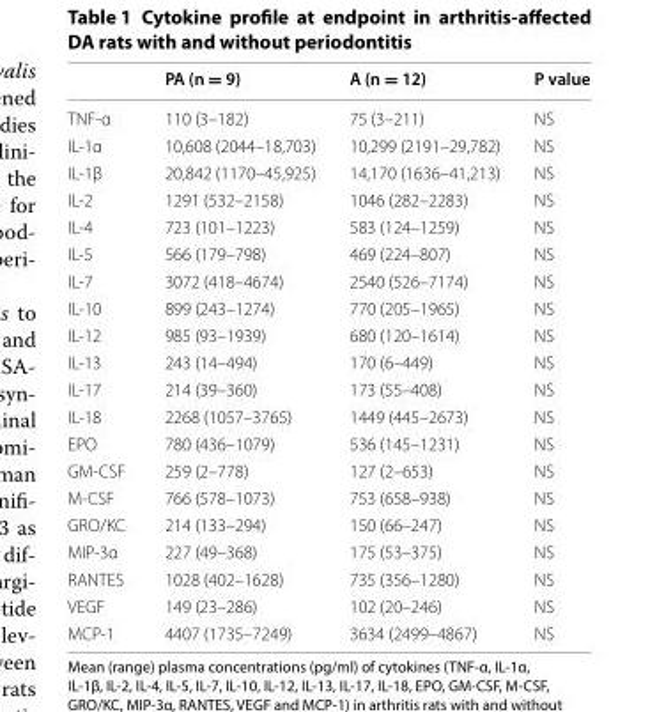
<table><thead><tr><td></td><td>PA (n = 9)</td><td>A (n = 12)</td><td>P value</td></tr></thead><tbody><tr><td>TNF‑α</td><td>110 (3–182)</td><td>75 (3–211)</td><td>NS</td></tr><tr><td>IL‑1α</td><td>10,608 (2044–18,703)</td><td>10,299 (2191–29,782)</td><td>NS</td></tr><tr><td>IL‑1β</td><td>20,842 (1170–45,925)</td><td>14,170 (1636–41,213)</td><td>NS</td></tr><tr><td>IL‑2</td><td>1291 (532–2158)</td><td>1046 (282–2283)</td><td>NS</td></tr><tr><td>IL‑4</td><td>723 (101–1223)</td><td>583 (124–1259)</td><td>NS</td></tr><tr><td>IL‑5</td><td>566 (179–798)</td><td>469 (224–807)</td><td>NS</td></tr><tr><td>IL‑7</td><td>3072 (418–4674)</td><td>2540 (526–7174)</td><td>NS</td></tr><tr><td>IL‑10</td><td>899 (243–1274)</td><td>770 (205–1965)</td><td>NS</td></tr><tr><td>IL‑12</td><td>985 (93–1939)</td><td>680 (120–1614)</td><td>NS</td></tr><tr><td>IL‑13</td><td>243 (14–494)</td><td>170 (6–449)</td><td>NS</td></tr><tr><td>IL‑17</td><td>214 (39–360)</td><td>173 (55–408)</td><td>NS</td></tr><tr><td>IL‑18</td><td>2268 (1057–3765)</td><td>1449 (445–2673)</td><td>NS</td></tr><tr><td>EPO</td><td>780 (436–1079)</td><td>536 (145–1231)</td><td>NS</td></tr><tr><td>GM‑CSF</td><td>259 (2–778)</td><td>127 (2–653)</td><td>NS</td></tr><tr><td>M‑CSF</td><td>766 (578–1073)</td><td>753 (658–938)</td><td>NS</td></tr><tr><td>GRO/KC</td><td>214 (133–294)</td><td>150 (66–247)</td><td>NS</td></tr><tr><td>MIP‑3α</td><td>227 (49–368)</td><td>175 (53–375)</td><td>NS</td></tr><tr><td>RANTES</td><td>1028 (402–1628)</td><td>735 (356–1280)</td><td>NS</td></tr><tr><td>VEGF</td><td>149 (23–286)</td><td>102 (20–246)</td><td>NS</td></tr><tr><td>MCP‑1</td><td>4407 (1735–7249)</td><td>3634 (2499–4867)</td><td>NS</td></tr></tbody></table>